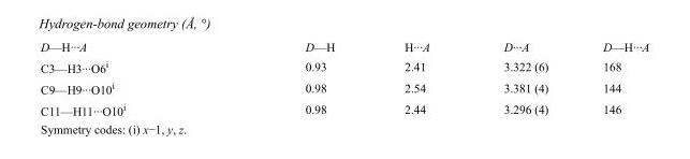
<table><tbody><tr><td>D—H···A</td><td>D—H</td><td>H···A</td><td>D···A</td><td>D—H···A</td></tr><tr><td>C3—H3···O6<sup>i</sup></td><td>0.93</td><td>2.41</td><td>3.322 (6)</td><td>168</td></tr><tr><td>C9—H9···O10<sup>i</sup></td><td>0.98</td><td>2.54</td><td>3.381 (4)</td><td>144</td></tr><tr><td>C11—H11···O10<sup>i</sup></td><td>0.98</td><td>2.44</td><td>3.296 (4)</td><td>146</td></tr></tbody></table>